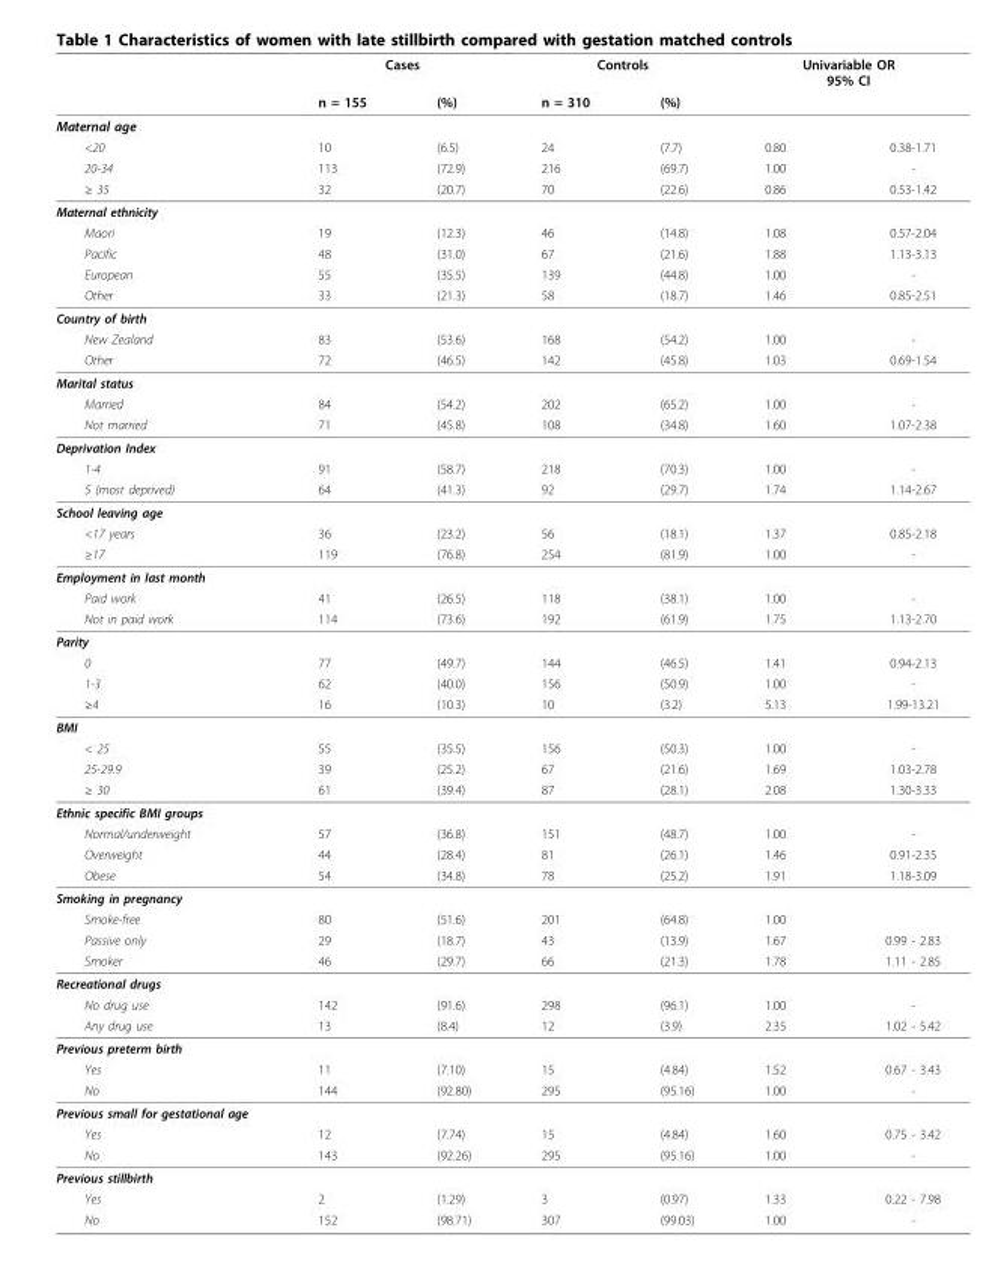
<table><thead><tr><td rowspan="2"></td><td colspan="2">Cases</td><td colspan="2">Controls</td><td colspan="2">Univariable OR 95% CI</td></tr><tr><td>n = 155</td><td>(%)</td><td>n = 310</td><td>(%)</td><td></td><td></td></tr></thead><tbody><tr><td colspan="7">Maternal age</td></tr><tr><td>&lt;20</td><td>10</td><td>(6.5)</td><td>24</td><td>(7.7)</td><td>0.80</td><td>0.38-1.71</td></tr><tr><td>20-34</td><td>113</td><td>(72.9)</td><td>216</td><td>(69.7)</td><td>1.00</td><td>-</td></tr><tr><td>≥ 35</td><td>32</td><td>(20.7)</td><td>70</td><td>(22.6)</td><td>0.86</td><td>0.53-1.42</td></tr><tr><td colspan="7">Maternal ethnicity</td></tr><tr><td>Maori</td><td>19</td><td>(12.3)</td><td>46</td><td>(14.8)</td><td>1.08</td><td>0.57-2.04</td></tr><tr><td>Pacific</td><td>48</td><td>(31.0)</td><td>67</td><td>(21.6)</td><td>1.88</td><td>1.13-3.13</td></tr><tr><td>European</td><td>55</td><td>(35.5)</td><td>139</td><td>(44.8)</td><td>1.00</td><td>-</td></tr><tr><td>Other</td><td>33</td><td>(21.3)</td><td>58</td><td>(18.7)</td><td>1.46</td><td>0.85-2.51</td></tr><tr><td colspan="7">Country of birth</td></tr><tr><td>New Zealand</td><td>83</td><td>(53.6)</td><td>168</td><td>(54.2)</td><td>1.00</td><td>-</td></tr><tr><td>Other</td><td>72</td><td>(46.5)</td><td>142</td><td>(45.8)</td><td>1.03</td><td>0.69-1.54</td></tr><tr><td colspan="7">Marital status</td></tr><tr><td>Married</td><td>84</td><td>(54.2)</td><td>202</td><td>(65.2)</td><td>1.00</td><td>-</td></tr><tr><td>Not married</td><td>71</td><td>(45.8)</td><td>108</td><td>(34.8)</td><td>1.60</td><td>1.07-2.38</td></tr><tr><td colspan="7">Deprivation Index</td></tr><tr><td>1-4</td><td>91</td><td>(58.7)</td><td>218</td><td>(70.3)</td><td>1.00</td><td>-</td></tr><tr><td>5 (most deprived)</td><td>64</td><td>(41.3)</td><td>92</td><td>(29.7)</td><td>1.74</td><td>1.14-2.67</td></tr><tr><td colspan="7">School leaving age</td></tr><tr><td>&lt;17 years</td><td>36</td><td>(23.2)</td><td>56</td><td>(18.1)</td><td>1.37</td><td>0.85-2.18</td></tr><tr><td>≥17</td><td>119</td><td>(76.8)</td><td>254</td><td>(81.9)</td><td>1.00</td><td>-</td></tr><tr><td colspan="7">Employment in last month</td></tr><tr><td>Paid work</td><td>41</td><td>(26.5)</td><td>118</td><td>(38.1)</td><td>1.00</td><td>-</td></tr><tr><td>Not in paid work</td><td>114</td><td>(73.6)</td><td>192</td><td>(61.9)</td><td>1.75</td><td>1.13-2.70</td></tr><tr><td colspan="7">Parity</td></tr><tr><td>0</td><td>77</td><td>(49.7)</td><td>144</td><td>(46.5)</td><td>1.41</td><td>0.94-2.13</td></tr><tr><td>1-3</td><td>62</td><td>(40.0)</td><td>156</td><td>(50.9)</td><td>1.00</td><td>-</td></tr><tr><td>≥4</td><td>16</td><td>(10.3)</td><td>10</td><td>(3.2)</td><td>5.13</td><td>1.99-13.21</td></tr><tr><td colspan="7">BMI</td></tr><tr><td>&lt; 25</td><td>55</td><td>(35.5)</td><td>156</td><td>(50.3)</td><td>1.00</td><td>-</td></tr><tr><td>25-29.9</td><td>39</td><td>(25.2)</td><td>67</td><td>(21.6)</td><td>1.69</td><td>1.03-2.78</td></tr><tr><td>≥ 30</td><td>61</td><td>(39.4)</td><td>87</td><td>(28.1)</td><td>2.08</td><td>1.30-3.33</td></tr><tr><td colspan="7">Ethnic specific BMI groups</td></tr><tr><td>Normal/underweight</td><td>57</td><td>(36.8)</td><td>151</td><td>(48.7)</td><td>1.00</td><td>-</td></tr><tr><td>Overweight</td><td>44</td><td>(28.4)</td><td>81</td><td>(26.1)</td><td>1.46</td><td>0.91-2.35</td></tr><tr><td>Obese</td><td>54</td><td>(34.8)</td><td>78</td><td>(25.2)</td><td>1.91</td><td>1.18-3.09</td></tr><tr><td colspan="7">Smoking in pregnancy</td></tr><tr><td>Smoke-free</td><td>80</td><td>(51.6)</td><td>201</td><td>(64.8)</td><td>1.00</td><td></td></tr><tr><td>Passive only</td><td>29</td><td>(18.7)</td><td>43</td><td>(13.9)</td><td>1.67</td><td>0.99 - 2.83</td></tr><tr><td>Smoker</td><td>46</td><td>(29.7)</td><td>66</td><td>(21.3)</td><td>1.78</td><td>1.11 - 2.85</td></tr><tr><td colspan="7">Recreational drugs</td></tr><tr><td>No drug use</td><td>142</td><td>(91.6)</td><td>298</td><td>(96.1)</td><td>1.00</td><td>-</td></tr><tr><td>Any drug use</td><td>13</td><td>(8.4)</td><td>12</td><td>(3.9)</td><td>2.35</td><td>1.02 - 5.42</td></tr><tr><td colspan="7">Previous preterm birth</td></tr><tr><td>Yes</td><td>11</td><td>(7.10)</td><td>15</td><td>(4.84)</td><td>1.52</td><td>0.67 - 3.43</td></tr><tr><td>No</td><td>144</td><td>(92.80)</td><td>295</td><td>(95.16)</td><td>1.00</td><td>-</td></tr><tr><td colspan="7">Previous small for gestational age</td></tr><tr><td>Yes</td><td>12</td><td>(7.74)</td><td>15</td><td>(4.84)</td><td>1.60</td><td>0.75 - 3.42</td></tr><tr><td>No</td><td>143</td><td>(92.26)</td><td>295</td><td>(95.16)</td><td>1.00</td><td>-</td></tr><tr><td colspan="7">Previous stillbirth</td></tr><tr><td>Yes</td><td>2</td><td>(1.29)</td><td>3</td><td>(0.97)</td><td>1.33</td><td>0.22 - 7.98</td></tr><tr><td>No</td><td>152</td><td>(98.71)</td><td>307</td><td>(99.03)</td><td>1.00</td><td>-</td></tr></tbody></table>